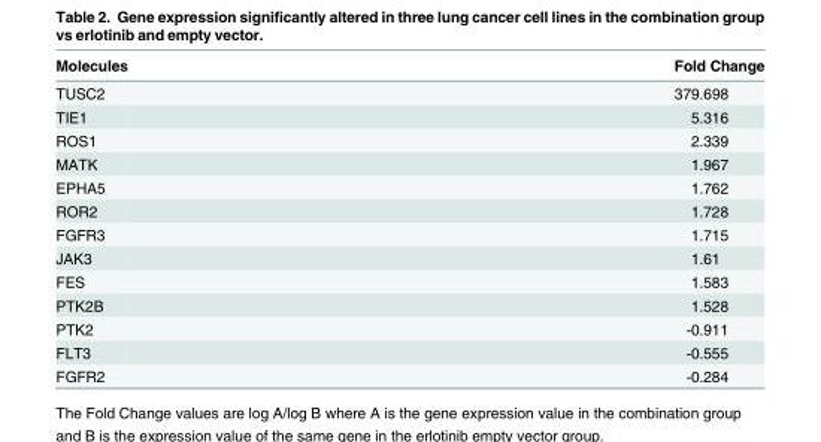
<table><thead><tr><td>Molecules</td><td>Fold Change</td></tr></thead><tbody><tr><td>TUSC2</td><td>379.698</td></tr><tr><td>TIE1</td><td>5.316</td></tr><tr><td>ROS1</td><td>2.339</td></tr><tr><td>MATK</td><td>1.967</td></tr><tr><td>EPHA5</td><td>1.762</td></tr><tr><td>ROR2</td><td>1.728</td></tr><tr><td>FGFR3</td><td>1.715</td></tr><tr><td>JAK3</td><td>1.61</td></tr><tr><td>FES</td><td>1.583</td></tr><tr><td>PTK2B</td><td>1.528</td></tr><tr><td>PTK2</td><td>-0.911</td></tr><tr><td>FLT3</td><td>-0.555</td></tr><tr><td>FGFR2</td><td>-0.284</td></tr></tbody></table>